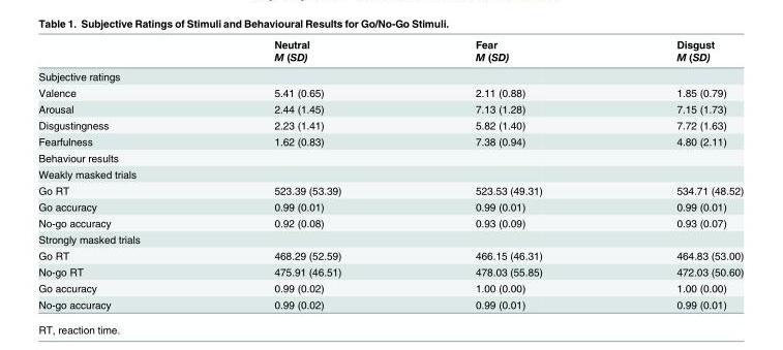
<table><thead><tr><td rowspan="2"></td><td rowspan="2">Neutral M (SD)</td><td rowspan="2">Fear M (SD)</td><td rowspan="2">Disgust M (SD)</td></tr><tr></tr></thead><tbody><tr><td colspan="4">Subjective ratings</td></tr><tr><td>Valence</td><td>5.41 (0.65)</td><td>2.11 (0.88)</td><td>1.85 (0.79)</td></tr><tr><td>Arousal</td><td>2.44 (1.45)</td><td>7.13 (1.28)</td><td>7.15 (1.73)</td></tr><tr><td>Disgustingness</td><td>2.23 (1.41)</td><td>5.82 (1.40)</td><td>7.72 (1.63)</td></tr><tr><td>Fearfulness</td><td>1.62 (0.83)</td><td>7.38 (0.94)</td><td>4.80 (2.11)</td></tr><tr><td colspan="4">Behaviour results</td></tr><tr><td colspan="4">Weakly masked trials</td></tr><tr><td>Go RT</td><td>523.39 (53.39)</td><td>523.53 (49.31)</td><td>534.71 (48.52)</td></tr><tr><td>Go accuracy</td><td>0.99 (0.01)</td><td>0.99 (0.01)</td><td>0.99 (0.01)</td></tr><tr><td>No-go accuracy</td><td>0.92 (0.08)</td><td>0.93 (0.09)</td><td>0.93 (0.07)</td></tr><tr><td colspan="4">Strongly masked trials</td></tr><tr><td>Go RT</td><td>468.29 (52.59)</td><td>466.15 (46.31)</td><td>464.83 (53.00)</td></tr><tr><td>No-go RT</td><td>475.91 (46.51)</td><td>478.03 (55.85)</td><td>472.03 (50.60)</td></tr><tr><td>Go accuracy</td><td>0.99 (0.02)</td><td>1.00 (0.00)</td><td>1.00 (0.00)</td></tr><tr><td>No-go accuracy</td><td>0.99 (0.02)</td><td>0.99 (0.01)</td><td>0.99 (0.01)</td></tr></tbody></table>